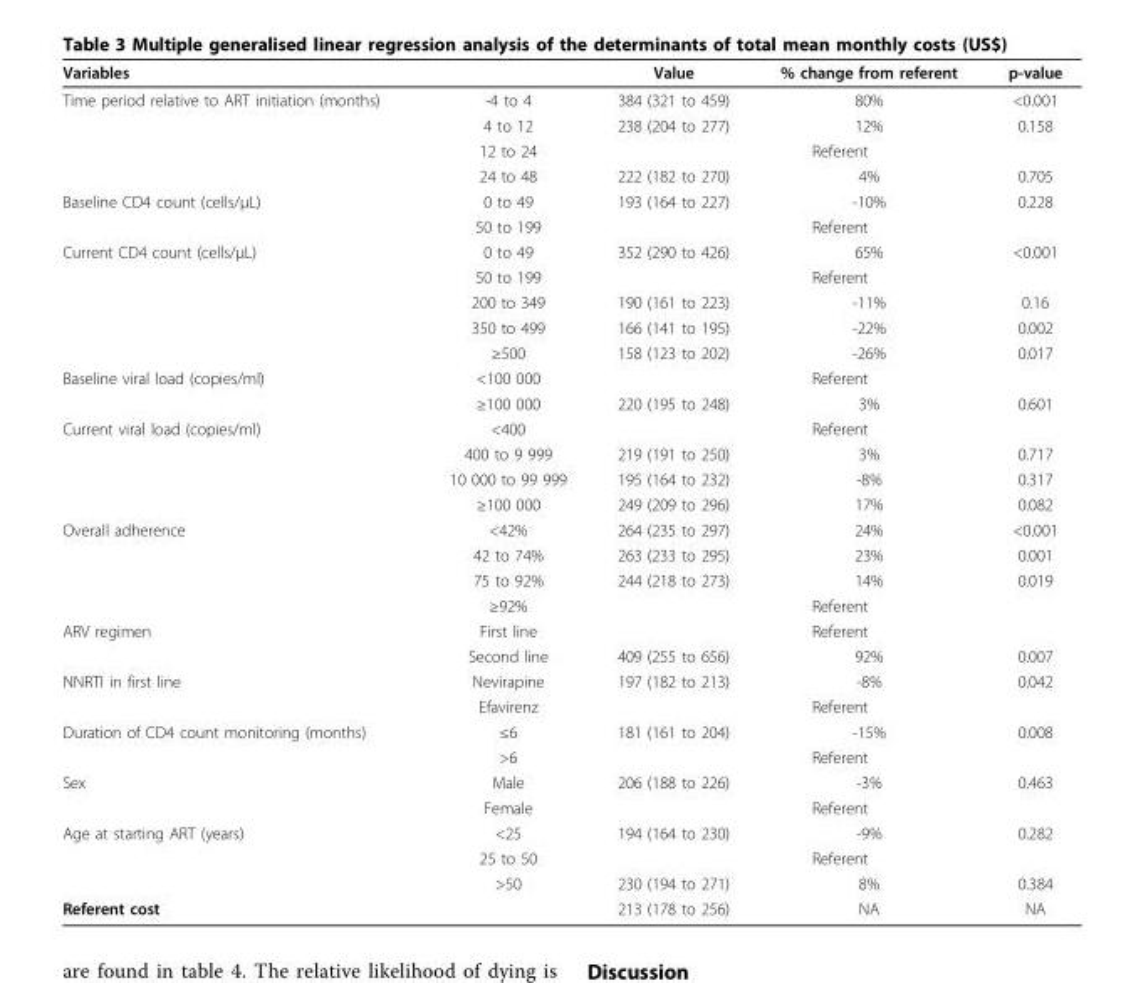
<table><thead><tr><td colspan="2">Variables</td><td rowspan="2">Value 384 (321 to 459)</td><td rowspan="2">% change from referent 80%</td><td rowspan="2">p-value &lt;0.001</td></tr><tr><td>Time period relative to ART initiation (months)</td><td>-4 to 4</td></tr></thead><tbody><tr><td></td><td>4 to 12</td><td>238 (204 to 277)</td><td>12%</td><td>0.158</td></tr><tr><td></td><td>12 to 24</td><td colspan="3">Referent</td></tr><tr><td></td><td>24 to 48</td><td>222 (182 to 270)</td><td>4%</td><td>0.705</td></tr><tr><td rowspan="2">Baseline CD4 count (cells/µL)</td><td>0 to 49</td><td>193 (164 to 227)</td><td>-10%</td><td>0.228</td></tr><tr><td>50 to 199</td><td colspan="3">Referent</td></tr><tr><td rowspan="5">Current CD4 count (cells/µL)</td><td>0 to 49</td><td>352 (290 to 426)</td><td>65%</td><td>&lt;0.001</td></tr><tr><td>50 to 199</td><td colspan="3">Referent</td></tr><tr><td>200 to 349</td><td>190 (161 to 223)</td><td>-11%</td><td>0.16</td></tr><tr><td>350 to 499</td><td>166 (141 to 195)</td><td>-22%</td><td>0.002</td></tr><tr><td>≥500</td><td>158 (123 to 202)</td><td>-26%</td><td>0.017</td></tr><tr><td rowspan="2">Baseline viral load (copies/ml)</td><td>&lt;100 000</td><td colspan="3">Referent</td></tr><tr><td>≥100 000</td><td>220 (195 to 248)</td><td>3%</td><td>0.601</td></tr><tr><td rowspan="4">Current viral load (copies/ml)</td><td>&lt;400</td><td colspan="3">Referent</td></tr><tr><td>400 to 9 999</td><td>219 (191 to 250)</td><td>3%</td><td>0.717</td></tr><tr><td>10 000 to 99 999</td><td>195 (164 to 232)</td><td>-8%</td><td>0.317</td></tr><tr><td>≥100 000</td><td>249 (209 to 296)</td><td>17%</td><td>0.082</td></tr><tr><td rowspan="4">Overall adherence</td><td>&lt;42%</td><td>264 (235 to 297)</td><td>24%</td><td>&lt;0.001</td></tr><tr><td>42 to 74%</td><td>263 (233 to 295)</td><td>23%</td><td>0.001</td></tr><tr><td>75 to 92%</td><td>244 (218 to 273)</td><td>14%</td><td>0.019</td></tr><tr><td>≥92%</td><td colspan="3">Referent</td></tr><tr><td rowspan="2">ARV regimen</td><td>First line</td><td colspan="3">Referent</td></tr><tr><td>Second line</td><td>409 (255 to 656)</td><td>92%</td><td>0.007</td></tr><tr><td rowspan="2">NNRTI in first line</td><td>Nevirapine</td><td>197 (182 to 213)</td><td>-8%</td><td>0.042</td></tr><tr><td>Efavirenz</td><td colspan="3">Referent</td></tr><tr><td rowspan="2">Duration of CD4 count monitoring (months)</td><td>≤6</td><td>181 (161 to 204)</td><td>-15%</td><td>0.008</td></tr><tr><td>&gt;6</td><td colspan="3">Referent</td></tr><tr><td rowspan="2">Sex</td><td>Male</td><td>206 (188 to 226)</td><td>-3%</td><td>0.463</td></tr><tr><td>Female</td><td colspan="3">Referent</td></tr><tr><td rowspan="3">Age at starting ART (years)</td><td>&lt;25</td><td>194 (164 to 230)</td><td>-9%</td><td>0.282</td></tr><tr><td>25 to 50</td><td colspan="3">Referent</td></tr><tr><td>&gt;50</td><td>230 (194 to 271)</td><td>8%</td><td>0.384</td></tr><tr><td>Referent cost</td><td></td><td>213 (178 to 256)</td><td>NA</td><td>NA</td></tr></tbody></table>